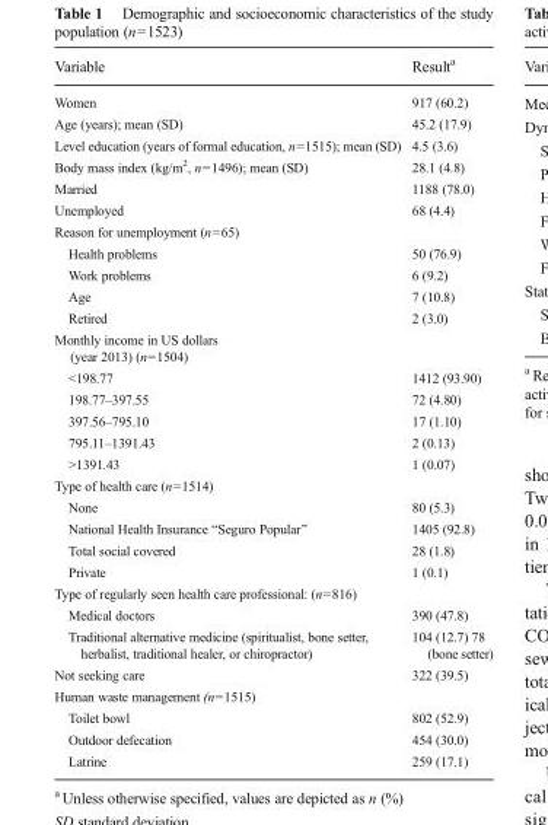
<table><thead><tr><td>Variable</td><td>Result<sup>a</sup></td></tr></thead><tbody><tr><td>Women</td><td>917 (60.2)</td></tr><tr><td>Age (years); mean (SD)</td><td>45.2 (17.9)</td></tr><tr><td>Level education (years of formal education, n=1515); mean (SD)</td><td>4.5 (3.6)</td></tr><tr><td>Body mass index (kg/m<sup>2</sup>, n=1496); mean (SD)</td><td>28.1 (4.8)</td></tr><tr><td>Married</td><td>1188 (78.0)</td></tr><tr><td>Unemployed</td><td>68 (4.4)</td></tr><tr><td colspan="2">Reason for unemployment (n=65)</td></tr><tr><td>Health problems</td><td>50 (76.9)</td></tr><tr><td>Work problems</td><td>6 (9.2)</td></tr><tr><td>Age</td><td>7 (10.8)</td></tr><tr><td>Retired</td><td>2 (3.0)</td></tr><tr><td colspan="2">Monthly income in US dollars (year 2013) (n=1504)</td></tr><tr><td>&lt;198.77</td><td>1412 (93.90)</td></tr><tr><td>198.77–397.55</td><td>72 (4.80)</td></tr><tr><td>397.56–795.10</td><td>17 (1.10)</td></tr><tr><td>795.11–1391.43</td><td>2 (0.13)</td></tr><tr><td>&gt;1391.43</td><td>1 (0.07)</td></tr><tr><td colspan="2">Type of health care (n=1514)</td></tr><tr><td>None</td><td>80 (5.3)</td></tr><tr><td>National Health Insurance “Seguro Popular”</td><td>1405 (92.8)</td></tr><tr><td>Total social covered</td><td>28 (1.8)</td></tr><tr><td>Private</td><td>1 (0.1)</td></tr><tr><td colspan="2">Type of regularly seen health care professional: (n=816)</td></tr><tr><td>Medical doctors</td><td>390 (47.8)</td></tr><tr><td>Traditional alternative medicine (spiritualist, bone setter, herbalist, traditional healer, or chiropractor)</td><td>104 (12.7) 78 (bone setter)</td></tr><tr><td>Not seeking care</td><td>322 (39.5)</td></tr><tr><td colspan="2">Human waste management (n=1515)</td></tr><tr><td>Toilet bowl</td><td>802 (52.9)</td></tr><tr><td>Outdoor defecation</td><td>454 (30.0)</td></tr><tr><td>Latrine</td><td>259 (17.1)</td></tr></tbody></table>